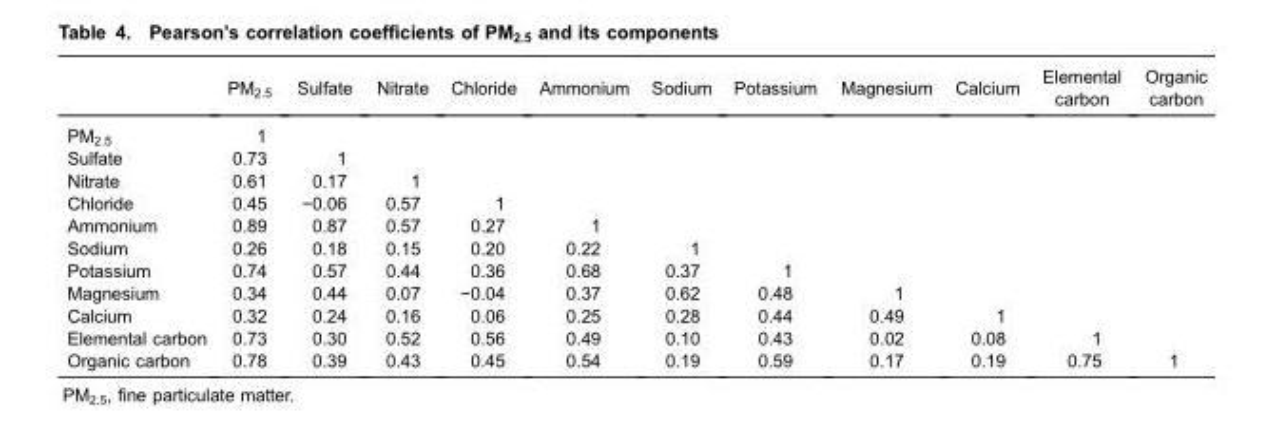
<table><thead><tr><td></td><td>PM<sub>2.5</sub></td><td>Sulfate</td><td>Nitrate</td><td>Chloride</td><td>Ammonium</td><td>Sodium</td><td>Potassium</td><td>Magnesium</td><td>Calcium</td><td>Elemental carbon</td><td>Organic carbon</td></tr></thead><tbody><tr><td>PM<sub>2.5</sub></td><td>1</td><td></td><td></td><td></td><td></td><td></td><td></td><td></td><td></td><td></td><td></td></tr><tr><td>Sulfate</td><td>0.73</td><td>1</td><td></td><td></td><td></td><td></td><td></td><td></td><td></td><td></td><td></td></tr><tr><td>Nitrate</td><td>0.61</td><td>0.17</td><td>1</td><td></td><td></td><td></td><td></td><td></td><td></td><td></td><td></td></tr><tr><td>Chloride</td><td>0.45</td><td>−0.06</td><td>0.57</td><td>1</td><td></td><td></td><td></td><td></td><td></td><td></td><td></td></tr><tr><td>Ammonium</td><td>0.89</td><td>0.87</td><td>0.57</td><td>0.27</td><td>1</td><td></td><td></td><td></td><td></td><td></td><td></td></tr><tr><td>Sodium</td><td>0.26</td><td>0.18</td><td>0.15</td><td>0.20</td><td>0.22</td><td>1</td><td></td><td></td><td></td><td></td><td></td></tr><tr><td>Potassium</td><td>0.74</td><td>0.57</td><td>0.44</td><td>0.36</td><td>0.68</td><td>0.37</td><td>1</td><td></td><td></td><td></td><td></td></tr><tr><td>Magnesium</td><td>0.34</td><td>0.44</td><td>0.07</td><td>−0.04</td><td>0.37</td><td>0.62</td><td>0.48</td><td>1</td><td></td><td></td><td></td></tr><tr><td>Calcium</td><td>0.32</td><td>0.24</td><td>0.16</td><td>0.06</td><td>0.25</td><td>0.28</td><td>0.44</td><td>0.49</td><td>1</td><td></td><td></td></tr><tr><td>Elemental carbon</td><td>0.73</td><td>0.30</td><td>0.52</td><td>0.56</td><td>0.49</td><td>0.10</td><td>0.43</td><td>0.02</td><td>0.08</td><td>1</td><td></td></tr><tr><td>Organic carbon</td><td>0.78</td><td>0.39</td><td>0.43</td><td>0.45</td><td>0.54</td><td>0.19</td><td>0.59</td><td>0.17</td><td>0.19</td><td>0.75</td><td>1</td></tr></tbody></table>